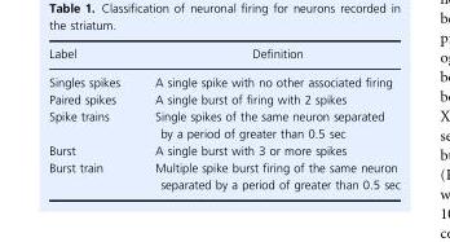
<table><thead><tr><td>Label</td><td>Definition</td></tr></thead><tbody><tr><td>Singles spikes</td><td>A single spike with no other associated firing</td></tr><tr><td>Paired spikes</td><td>A single burst of firing with 2 spikes</td></tr><tr><td>Spike trains</td><td>Single spikes of the same neuron separated by a period of greater than 0.5 sec</td></tr><tr><td>Burst</td><td>A single burst with 3 or more spikes</td></tr><tr><td>Burst train</td><td>Multiple spike burst firing of the same neuron separated by a period of greater than 0.5 sec</td></tr></tbody></table>